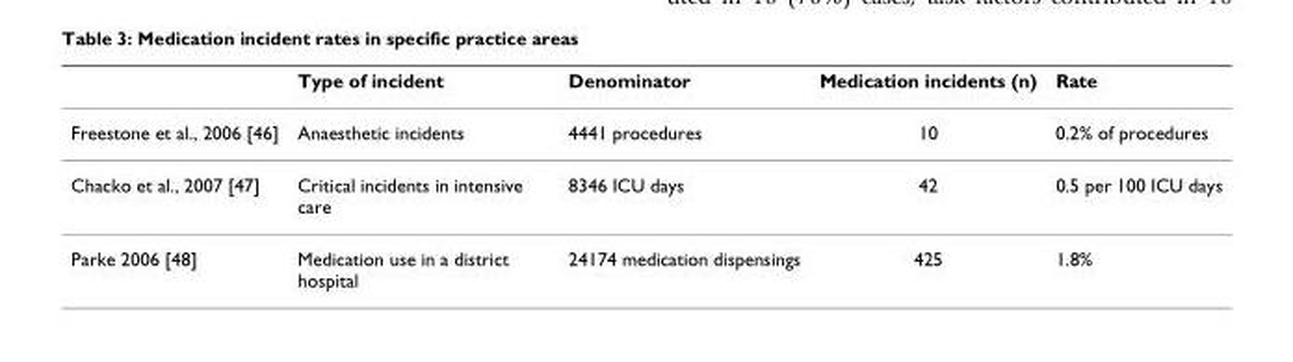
<table><thead><tr><td></td><td>Type of incident</td><td>Denominator</td><td>Medication incidents (n)</td><td>Rate</td></tr></thead><tbody><tr><td>Freestone et al., 2006 [46]</td><td>Anaesthetic incidents</td><td>4441 procedures</td><td>10</td><td>0.2% of procedures</td></tr><tr><td>Chacko et al., 2007 [47]</td><td>Critical incidents in intensive care</td><td>8346 ICU days</td><td>42</td><td>0.5 per 100 ICU days</td></tr><tr><td>Parke 2006 [48]</td><td>Medication use in a district hospital</td><td>24174 medication dispensings</td><td>425</td><td>1.8%</td></tr></tbody></table>